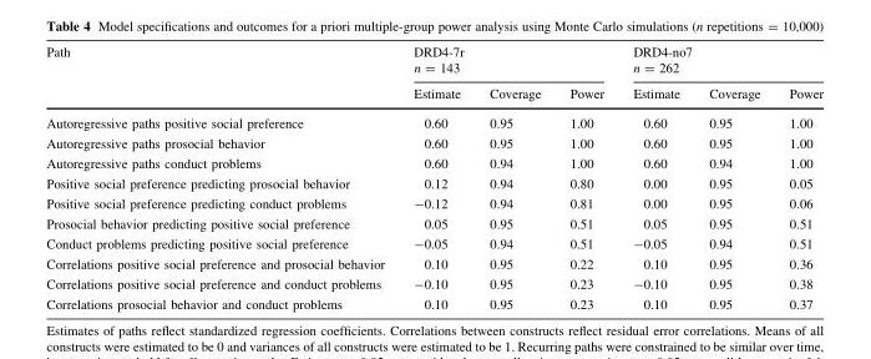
<table><thead><tr><td rowspan="2">Path</td><td colspan="3">DRD4-7r n = 143</td><td colspan="3">DRD4-no7 n = 262</td></tr><tr><td>Estimate</td><td>Coverage</td><td>Power</td><td>Estimate</td><td>Coverage</td><td>Power</td></tr></thead><tbody><tr><td>Autoregressive paths positive social preference</td><td>0.60</td><td>0.95</td><td>1.00</td><td>0.60</td><td>0.95</td><td>1.00</td></tr><tr><td>Autoregressive paths prosocial behavior</td><td>0.60</td><td>0.95</td><td>1.00</td><td>0.60</td><td>0.95</td><td>1.00</td></tr><tr><td>Autoregressive paths conduct problems</td><td>0.60</td><td>0.94</td><td>1.00</td><td>0.60</td><td>0.94</td><td>1.00</td></tr><tr><td>Positive social preference predicting prosocial behavior</td><td>0.12</td><td>0.94</td><td>0.80</td><td>0.00</td><td>0.95</td><td>0.05</td></tr><tr><td>Positive social preference predicting conduct problems</td><td>-0.12</td><td>0.94</td><td>0.81</td><td>0.00</td><td>0.95</td><td>0.06</td></tr><tr><td>Prosocial behavior predicting positive social preference</td><td>0.05</td><td>0.95</td><td>0.51</td><td>0.05</td><td>0.95</td><td>0.51</td></tr><tr><td>Conduct problems predicting positive social preference</td><td>-0.05</td><td>0.94</td><td>0.51</td><td>-0.05</td><td>0.94</td><td>0.51</td></tr><tr><td>Correlations positive social preference and prosocial behavior</td><td>0.10</td><td>0.95</td><td>0.22</td><td>0.10</td><td>0.95</td><td>0.36</td></tr><tr><td>Correlations positive social preference and conduct problems</td><td>-0.10</td><td>0.95</td><td>0.23</td><td>-0.10</td><td>0.95</td><td>0.38</td></tr><tr><td>Correlations prosocial behavior and conduct problems</td><td>0.10</td><td>0.95</td><td>0.23</td><td>0.10</td><td>0.95</td><td>0.37</td></tr></tbody></table>